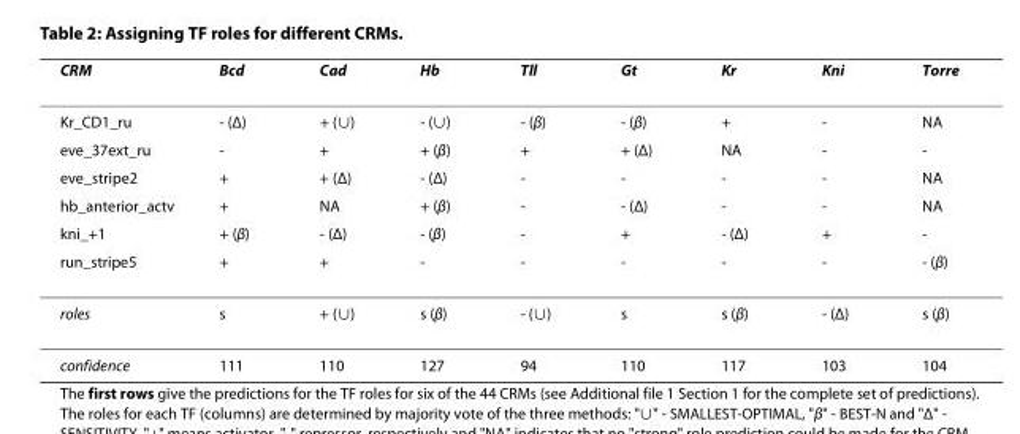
<table><thead><tr><td>CRM</td><td>Bcd</td><td>Cad</td><td>Hb</td><td>Tll</td><td>Gt</td><td>Kr</td><td>Kni</td><td>Torre</td></tr></thead><tbody><tr><td>Kr_CD1_ru</td><td>- (Δ)</td><td>+ (∪)</td><td>- (∪)</td><td>- (β)</td><td>- (β)</td><td>+</td><td>-</td><td>NA</td></tr><tr><td>eve_37ext_ru</td><td>-</td><td>+</td><td>+ (β)</td><td>+</td><td>+ (Δ)</td><td>NA</td><td>-</td><td>-</td></tr><tr><td>eve_stripe2</td><td>+</td><td>+ (Δ)</td><td>- (Δ)</td><td>-</td><td>-</td><td>-</td><td>-</td><td>NA</td></tr><tr><td>hb_anterior_actv</td><td>+</td><td>NA</td><td>+ (β)</td><td>-</td><td>- (Δ)</td><td>-</td><td>-</td><td>NA</td></tr><tr><td>kni_+1</td><td>+ (β)</td><td>- (Δ)</td><td>- (β)</td><td>-</td><td>+</td><td>- (Δ)</td><td>+</td><td>-</td></tr><tr><td>run_stripe5</td><td>+</td><td>+</td><td>-</td><td>-</td><td>-</td><td>-</td><td>-</td><td>- (β)</td></tr><tr><td>roles</td><td>s</td><td>+ (∪)</td><td>s (β)</td><td>- (∪)</td><td>s</td><td>s (β)</td><td>- (Δ)</td><td>s (β)</td></tr><tr><td>confidence</td><td>111</td><td>110</td><td>127</td><td>94</td><td>110</td><td>117</td><td>103</td><td>104</td></tr></tbody></table>